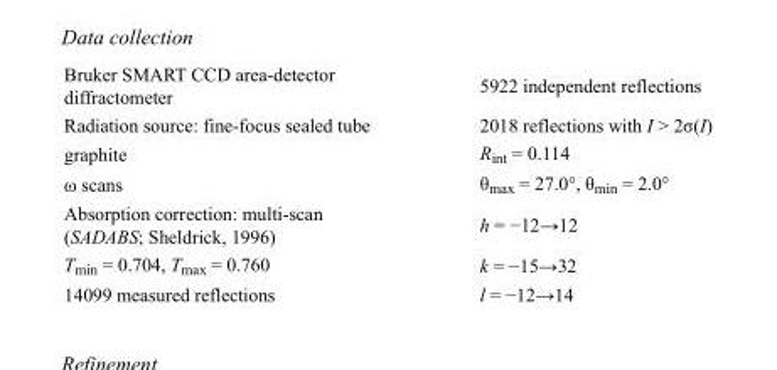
<table><tbody><tr><td>Bruker SMART CCD area-detector diffractometer</td><td>5922 independent reflections</td></tr><tr><td>Radiation source: fine-focus sealed tube</td><td>2018 reflections with I &gt; 2σ(I)</td></tr><tr><td>graphite</td><td>R<sub>int</sub> = 0.114</td></tr><tr><td>ω scans</td><td>θ<sub>max</sub> = 27.0°, θ<sub>min</sub> = 2.0°</td></tr><tr><td>Absorption correction: multi-scan (SADABS; Sheldrick, 1996)</td><td>h = −12→12</td></tr><tr><td>T<sub>min</sub> = 0.704, T<sub>max</sub> = 0.760</td><td>k = −15→32</td></tr><tr><td>14099 measured reflections</td><td>l = −12→14</td></tr></tbody></table>